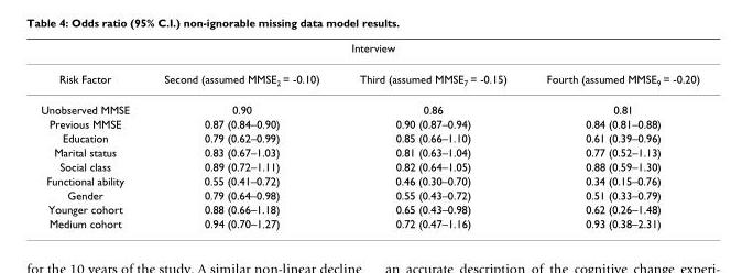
<table><thead><tr><td colspan="4">Interview</td></tr><tr><td>Risk Factor</td><td>Second (assumed MMSE<sub>2</sub> = -0.10)</td><td>Third (assumed MMSE<sub>7</sub> = -0.15)</td><td>Fourth (assumed MMSE<sub>9</sub> = -0.20)</td></tr></thead><tbody><tr><td>Unobserved MMSE</td><td>0.90</td><td>0.86</td><td>0.81</td></tr><tr><td>Previous MMSE</td><td>0.87 (0.84–0.90)</td><td>0.90 (0.87–0.94)</td><td>0.84 (0.81–0.88)</td></tr><tr><td>Education</td><td>0.79 (0.62–0.99)</td><td>0.85 (0.66–1.10)</td><td>0.61 (0.39–0.96)</td></tr><tr><td>Marital status</td><td>0.83 (0.67–1.03)</td><td>0.81 (0.63–1.04)</td><td>0.77 (0.52–1.13)</td></tr><tr><td>Social class</td><td>0.89 (0.72–1.11)</td><td>0.82 (0.64–1.05)</td><td>0.88 (0.59–1.30)</td></tr><tr><td>Functional ability</td><td>0.55 (0.41–0.72)</td><td>0.46 (0.30–0.70)</td><td>0.34 (0.15–0.76)</td></tr><tr><td>Gender</td><td>0.79 (0.64–0.98)</td><td>0.55 (0.43–0.72)</td><td>0.51 (0.33–0.79)</td></tr><tr><td>Younger cohort</td><td>0.88 (0.66–1.18)</td><td>0.65 (0.43–0.98)</td><td>0.62 (0.26–1.48)</td></tr><tr><td>Medium cohort</td><td>0.94 (0.70–1.27)</td><td>0.72 (0.47–1.16)</td><td>0.93 (0.38–2.31)</td></tr></tbody></table>